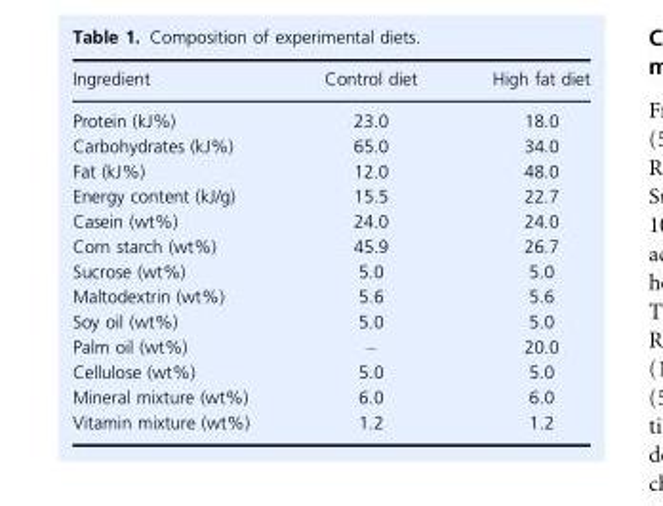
<table><thead><tr><td>Ingredient</td><td>Control diet</td><td>High fat diet</td></tr></thead><tbody><tr><td>Protein (kJ%)</td><td>23.0</td><td>18.0</td></tr><tr><td>Carbohydrates (kJ%)</td><td>65.0</td><td>34.0</td></tr><tr><td>Fat (kJ%)</td><td>12.0</td><td>48.0</td></tr><tr><td>Energy content (kJ/g)</td><td>15.5</td><td>22.7</td></tr><tr><td>Casein (wt%)</td><td>24.0</td><td>24.0</td></tr><tr><td>Corn starch (wt%)</td><td>45.9</td><td>26.7</td></tr><tr><td>Sucrose (wt%)</td><td>5.0</td><td>5.0</td></tr><tr><td>Maltodextrin (wt%)</td><td>5.6</td><td>5.6</td></tr><tr><td>Soy oil (wt%)</td><td>5.0</td><td>5.0</td></tr><tr><td>Palm oil (wt%)</td><td>–</td><td>20.0</td></tr><tr><td>Cellulose (wt%)</td><td>5.0</td><td>5.0</td></tr><tr><td>Mineral mixture (wt%)</td><td>6.0</td><td>6.0</td></tr><tr><td>Vitamin mixture (wt%)</td><td>1.2</td><td>1.2</td></tr></tbody></table>